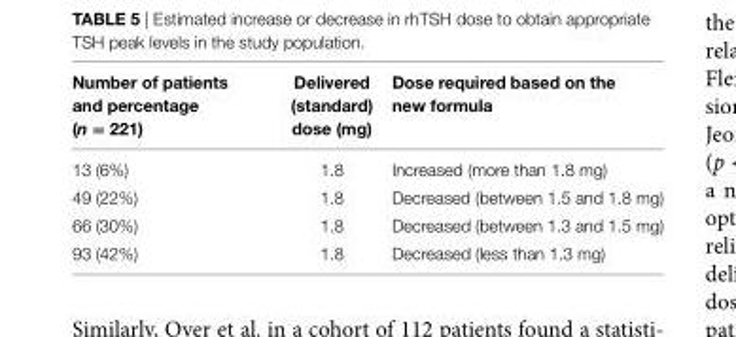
<table><thead><tr><td>number of patients and percentage (n = 221)</td><td>Delivered (standard) dose (mg)</td><td>Dose required based on the new formula</td></tr></thead><tbody><tr><td>13 (6%)</td><td>1.8</td><td>Increased (more than 1.8 mg)</td></tr><tr><td>49 (22%)</td><td>1.8</td><td>Decreased (between 1.5 and 1.8 mg)</td></tr><tr><td>66 (30%)</td><td>1.8</td><td>Decreased (between 1.3 and 1.5 mg)</td></tr><tr><td>93 (42%)</td><td>1.8</td><td>Decreased (less than 1.3 mg)</td></tr></tbody></table>